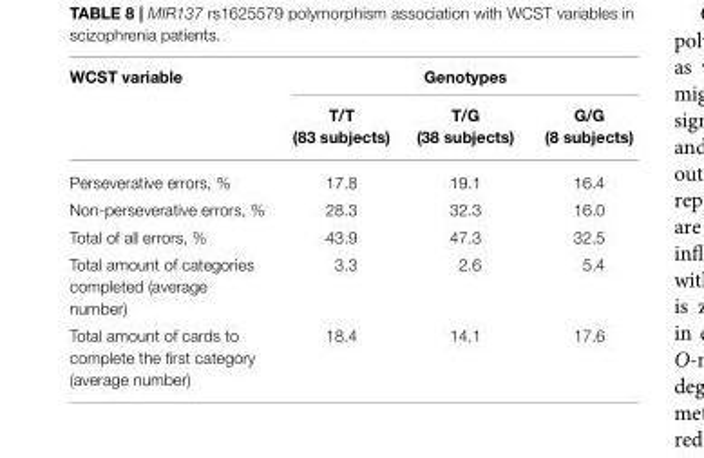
<table><thead><tr><td rowspan="2">WCST variable</td><td colspan="3">Genotypes</td></tr><tr><td>T/T (83 subjects)</td><td>T/G (38 subjects)</td><td>G/G (8 subjects)</td></tr></thead><tbody><tr><td>Perseverative errors, %</td><td>17.8</td><td>19.1</td><td>16.4</td></tr><tr><td>Non-perseverative errors, %</td><td>28.3</td><td>32.3</td><td>16.0</td></tr><tr><td>Total of all errors, %</td><td>43.9</td><td>47.3</td><td>32.5</td></tr><tr><td>Total amount of categories completed (average number)</td><td>3.3</td><td>2.6</td><td>5.4</td></tr><tr><td>Total amount of cards to complete the first category (average number)</td><td>18.4</td><td>14.1</td><td>17.6</td></tr></tbody></table>